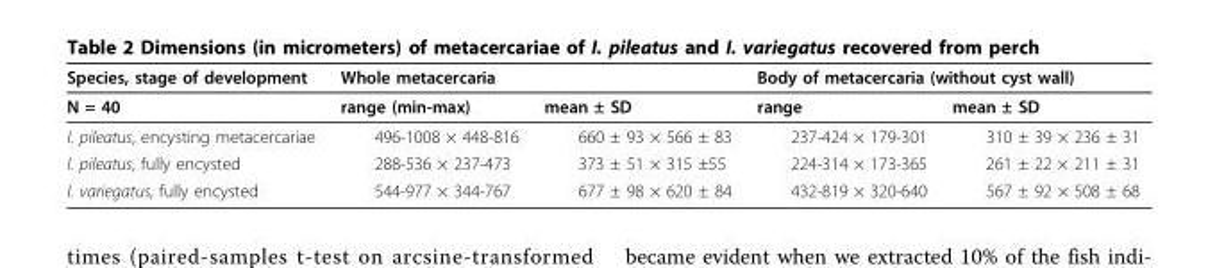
<table><thead><tr><td rowspan="2">Species, stage of development N = 40</td><td colspan="2">Whole metacercaria</td><td colspan="2">Body of metacercaria (without cyst wall)</td></tr><tr><td>range (min-max)</td><td>mean ± SD</td><td>range</td><td>mean ± SD</td></tr></thead><tbody><tr><td>I. pileatus, encysting metacercariae</td><td>496-1008 × 448-816</td><td>660 ± 93 × 566 ± 83</td><td>237-424 × 179-301</td><td>310 ± 39 × 236 ± 31</td></tr><tr><td>I. pileatus, fully encysted</td><td>288-536 × 237-473</td><td>373 ± 51 × 315 ±55</td><td>224-314 × 173-365</td><td>261 ± 22 × 211 ± 31</td></tr><tr><td>I. variegatus, fully encysted</td><td>544-977 × 344-767</td><td>677 ± 98 × 620 ± 84</td><td>432-819 × 320-640</td><td>567 ± 92 × 508 ± 68</td></tr></tbody></table>